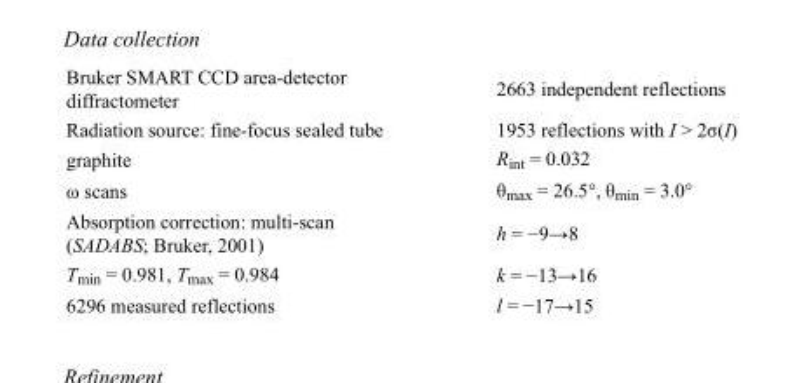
<table><tbody><tr><td>Bruker SMART CCD area-detector diffractometer</td><td>2663 independent reflections</td></tr><tr><td>Radiation source: fine-focus sealed tube</td><td>1953 reflections with I &gt; 2σ(I)</td></tr><tr><td>graphite</td><td>R<sub>int</sub> = 0.032</td></tr><tr><td>ω scans</td><td>θ<sub>max</sub> = 26.5°, θ<sub>min</sub> = 3.0°</td></tr><tr><td>Absorption correction: multi-scan (SADABS; Bruker, 2001)</td><td>h = −9→8</td></tr><tr><td>T<sub>min</sub> = 0.981, T<sub>max</sub> = 0.984</td><td>k = −13→16</td></tr><tr><td>6296 measured reflections</td><td>l = −17→15</td></tr></tbody></table>